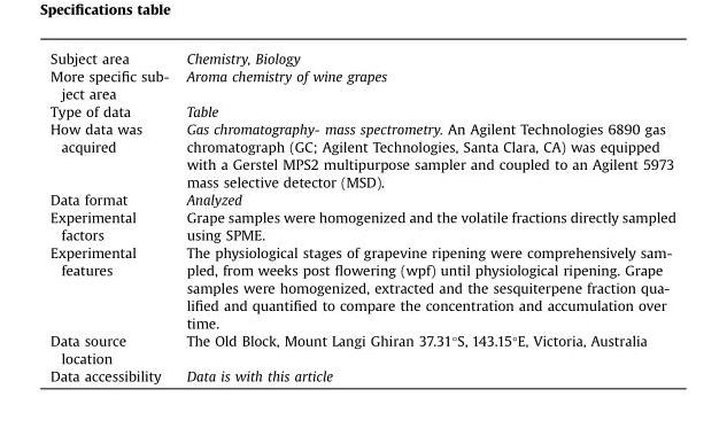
<table><tbody><tr><td>Subject area</td><td>Chemistry, Biology</td></tr><tr><td>More specific sub- ject area</td><td>Aroma chemistry of wine grapes</td></tr><tr><td>Type of data</td><td>Table</td></tr><tr><td>How data was acquired</td><td>Gas chromatography- mass spectrometry. An Agilent Technologies 6890 gas chromatograph (GC; Agilent Technologies, Santa Clara, CA) was equipped with a Gerstel MPS2 multipurpose sampler and coupled to an Agilent 5973 mass selective detector (MSD).</td></tr><tr><td>Data format</td><td>Analyzed</td></tr><tr><td>Experimental factors</td><td>Grape samples were homogenized and the volatile fractions directly sampled using SPME.</td></tr><tr><td>Experimental features</td><td>The physiological stages of grapevine ripening were comprehensively sam- pled, from weeks post flowering (wpf) until physiological ripening. Grape samples were homogenized, extracted and the sesquiterpene fraction qua- lified and quantified to compare the concentration and accumulation over time.</td></tr><tr><td>Data source location</td><td>The Old Block, Mount Langi Ghiran 37.31°S, 143.15°E, Victoria, Australia</td></tr><tr><td>Data accessibility</td><td>Data is with this article</td></tr></tbody></table>